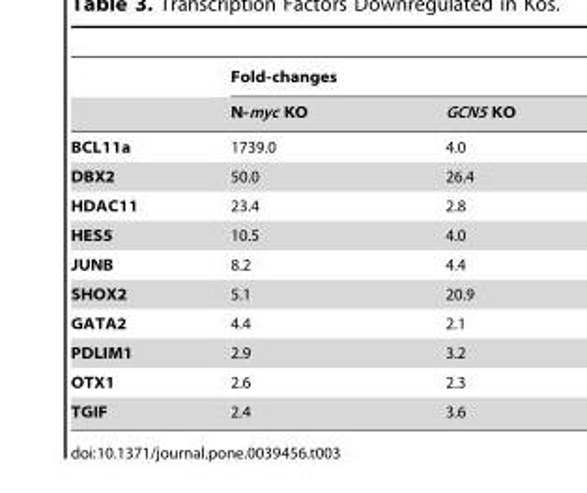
<table><thead><tr><td rowspan="2"></td><td colspan="2">Fold-changes</td></tr><tr><td>N-myc KO</td><td>GCN5 KO</td></tr></thead><tbody><tr><td>BCL11a</td><td>1739.0</td><td>4.0</td></tr><tr><td>DBX2</td><td>50.0</td><td>26.4</td></tr><tr><td>HDAC11</td><td>23.4</td><td>2.8</td></tr><tr><td>HES5</td><td>10.5</td><td>4.0</td></tr><tr><td>JUNB</td><td>8.2</td><td>4.4</td></tr><tr><td>SHOX2</td><td>5.1</td><td>20.9</td></tr><tr><td>GATA2</td><td>4.4</td><td>2.1</td></tr><tr><td>PDLIM1</td><td>2.9</td><td>3.2</td></tr><tr><td>OTX1</td><td>2.6</td><td>2.3</td></tr><tr><td>TGIF</td><td>2.4</td><td>3.6</td></tr></tbody></table>